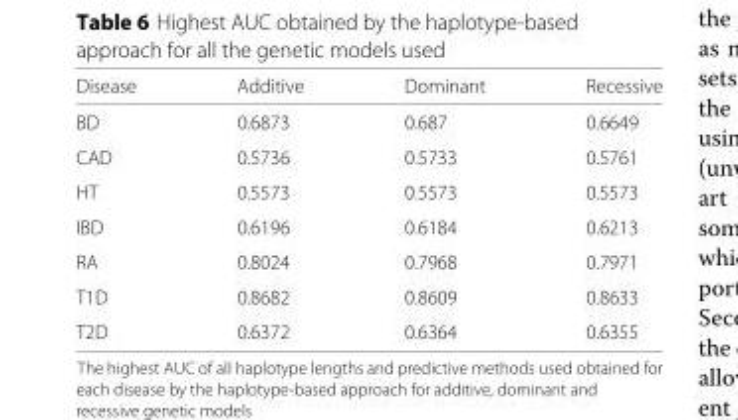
<table><thead><tr><td>Disease</td><td>Additive</td><td>Dominant</td><td>Recessive</td></tr></thead><tbody><tr><td>BD</td><td>0.6873</td><td>0.687</td><td>0.6649</td></tr><tr><td>CAD</td><td>0.5736</td><td>0.5733</td><td>0.5761</td></tr><tr><td>HT</td><td>0.5573</td><td>0.5573</td><td>0.5573</td></tr><tr><td>IBD</td><td>0.6196</td><td>0.6184</td><td>0.6213</td></tr><tr><td>RA</td><td>0.8024</td><td>0.7968</td><td>0.7971</td></tr><tr><td>T1D</td><td>0.8682</td><td>0.8609</td><td>0.8633</td></tr><tr><td>T2D</td><td>0.6372</td><td>0.6364</td><td>0.6355</td></tr></tbody></table>